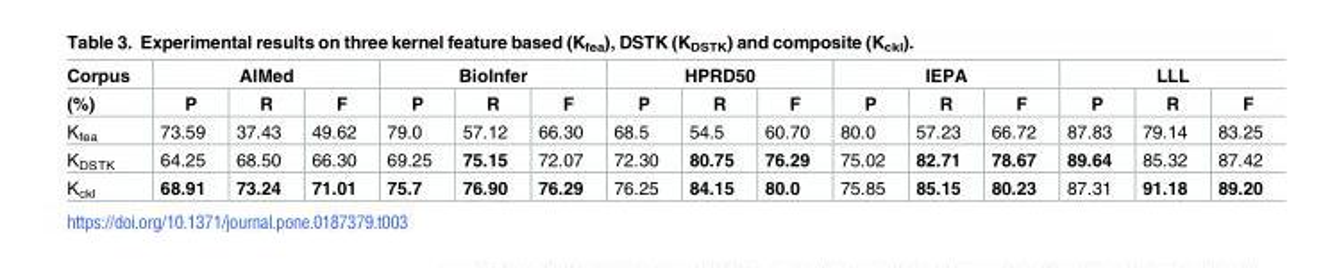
<table><thead><tr><td rowspan="2">Corpus (%)</td><td colspan="3">AIMed</td><td colspan="3">BioInfer</td><td colspan="3">HPRD50</td><td colspan="3">IEPA</td><td colspan="3">LLL</td></tr><tr><td>P</td><td>R</td><td>F</td><td>P</td><td>R</td><td>F</td><td>P</td><td>R</td><td>F</td><td>P</td><td>R</td><td>F</td><td>P</td><td>R</td><td>F</td></tr></thead><tbody><tr><td>K<sub>fea</sub></td><td>73.59</td><td>37.43</td><td>49.62</td><td>79.0</td><td>57.12</td><td>66.30</td><td>68.5</td><td>54.5</td><td>60.70</td><td>80.0</td><td>57.23</td><td>66.72</td><td>87.83</td><td>79.14</td><td>83.25</td></tr><tr><td>K<sub>DSTK</sub></td><td>64.25</td><td>68.50</td><td>66.30</td><td>69.25</td><td>75.15</td><td>72.07</td><td>72.30</td><td>80.75</td><td>76.29</td><td>75.02</td><td>82.71</td><td>78.67</td><td>89.64</td><td>85.32</td><td>87.42</td></tr><tr><td>K<sub>ckl</sub></td><td>68.91</td><td>73.24</td><td>71.01</td><td>75.7</td><td>76.90</td><td>76.29</td><td>76.25</td><td>84.15</td><td>80.0</td><td>75.85</td><td>85.15</td><td>80.23</td><td>87.31</td><td>91.18</td><td>89.20</td></tr></tbody></table>